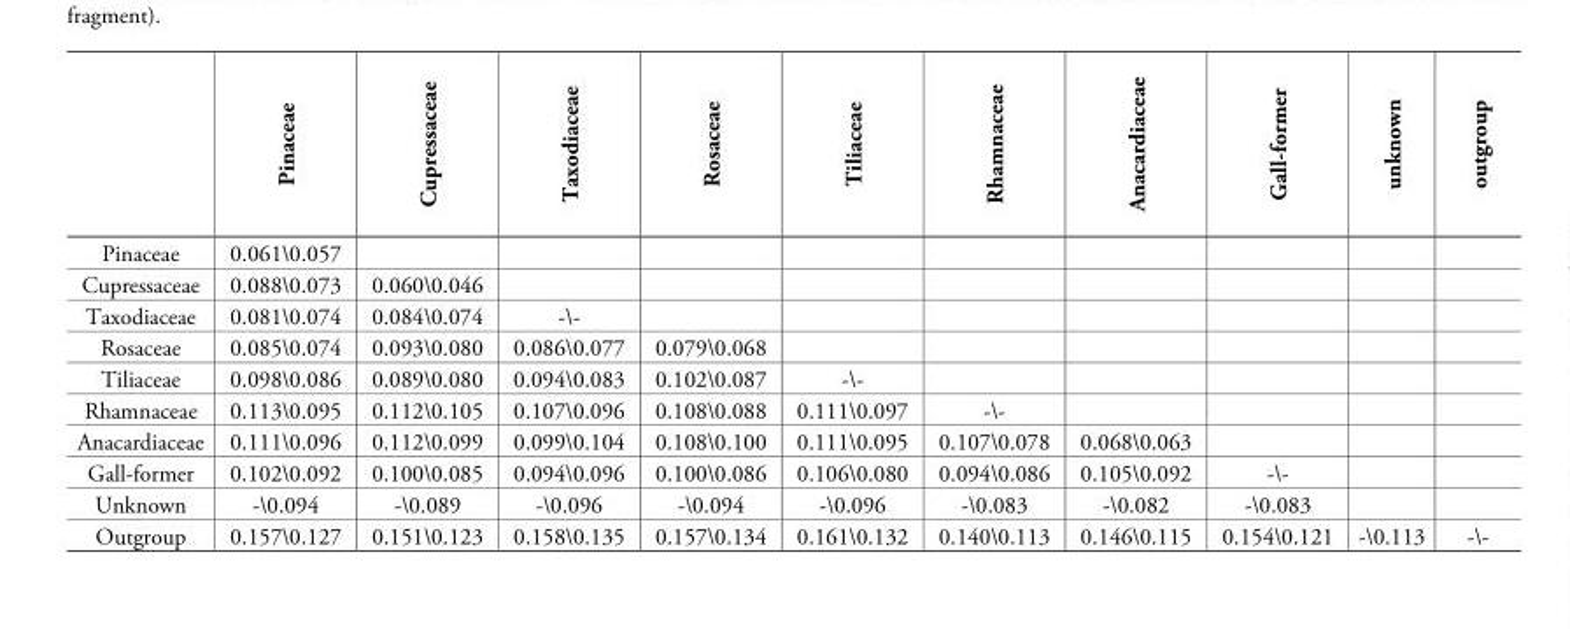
<table><thead><tr><td></td><td>Pinaceae</td><td>Cupressaceae</td><td>Taxodiaceae</td><td>Rosaceae</td><td>Tiliaceae</td><td>Rhamnaceae</td><td>Anacardiaceae</td><td>Gall-former</td><td>unknown</td><td>outgroup</td></tr></thead><tbody><tr><td>Pinaceae</td><td>0.061\0.057</td><td></td><td></td><td></td><td></td><td></td><td></td><td></td><td></td><td></td></tr><tr><td>Cupressaceae</td><td>0.088\0.073</td><td>0.060\0.046</td><td></td><td></td><td></td><td></td><td></td><td></td><td></td><td></td></tr><tr><td>Taxodiaceae</td><td>0.081\0.074</td><td>0.084\0.074</td><td>-\-</td><td></td><td></td><td></td><td></td><td></td><td></td><td></td></tr><tr><td>Rosaceae</td><td>0.085\0.074</td><td>0.093\0.080</td><td>0.086\0.077</td><td>0.079\0.068</td><td></td><td></td><td></td><td></td><td></td><td></td></tr><tr><td>Tiliaceae</td><td>0.098\0.086</td><td>0.089\0.080</td><td>0.094\0.083</td><td>0.102\0.087</td><td>-\-</td><td></td><td></td><td></td><td></td><td></td></tr><tr><td>Rhamnaceae</td><td>0.113\0.095</td><td>0.112\0.105</td><td>0.107\0.096</td><td>0.108\0.088</td><td>0.111\0.097</td><td>-\-</td><td></td><td></td><td></td><td></td></tr><tr><td>Anacardiaceae</td><td>0.111\0.096</td><td>0.112\0.099</td><td>0.099\0.104</td><td>0.108\0.100</td><td>0.111\0.095</td><td>0.107\0.078</td><td>0.068\0.063</td><td></td><td></td><td></td></tr><tr><td>Gall-former</td><td>0.102\0.092</td><td>0.100\0.085</td><td>0.094\0.096</td><td>0.100\0.086</td><td>0.106\0.080</td><td>0.094\0.086</td><td>0.105\0.092</td><td>-\-</td><td></td><td></td></tr><tr><td>Unknown</td><td>-\0.094</td><td>-\0.089</td><td>-\0.096</td><td>-\0.094</td><td>-\0.096</td><td>-\0.083</td><td>-\0.082</td><td>-\0.083</td><td></td><td></td></tr><tr><td>Outgroup</td><td>0.157\0.127</td><td>0.151\0.123</td><td>0.158\0.135</td><td>0.157\0.134</td><td>0.161\0.132</td><td>0.140\0.113</td><td>0.146\0.115</td><td>0.154\0.121</td><td>-\0.113</td><td>-\-</td></tr></tbody></table>